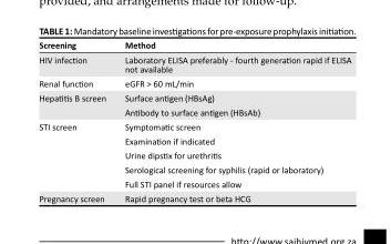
<table><thead><tr><td>Screening</td><td>Method</td></tr></thead><tbody><tr><td>HIV infection</td><td>Laboratory ELISA preferably - fourth generation rapid if ELISA not available</td></tr><tr><td>Renal function</td><td>eGFR &gt; 60 mL/min</td></tr><tr><td>Hepatitis B screen</td><td>Surface antigen (HBsAg) Antibody to surface antigen (HBsAb)</td></tr><tr><td>STI screen</td><td>Symptomatic screen Examination if indicated Urine dipstix for urethritis Serological screening for syphilis (rapid or laboratory) Full STI panel if resources allow</td></tr><tr><td>Pregnancy screen</td><td>Rapid pregnancy test or beta HCG</td></tr></tbody></table>